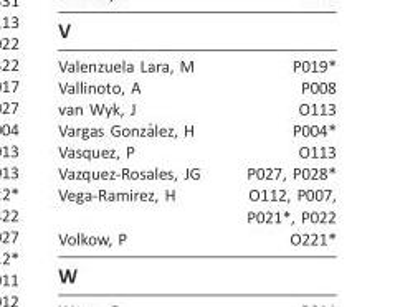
<table><tbody><tr><td>Valenzuela Lara, M</td><td>P019*</td></tr><tr><td>Vallinoto, A</td><td>P008</td></tr><tr><td>van Wyk, J</td><td>O113</td></tr><tr><td>Vargas Gonza´lez, H</td><td>P004*</td></tr><tr><td>Vasquez, P</td><td>O113</td></tr><tr><td>Vazquez-Rosales, JG</td><td>P027, P028*</td></tr><tr><td>Vega-Ramirez, H</td><td>O112, P007, P021*, P022</td></tr><tr><td>Volkow, P</td><td>O221*</td></tr></tbody></table>